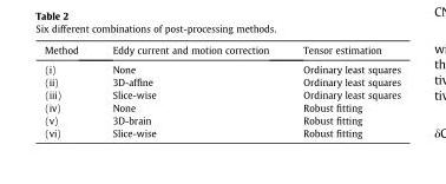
<table><thead><tr><td>Method</td><td>Eddy current and motion correction</td><td>Tensor estimation</td></tr></thead><tbody><tr><td>(i)</td><td>None</td><td>Ordinary least squares</td></tr><tr><td>(ii)</td><td>3D-affine</td><td>Ordinary least squares</td></tr><tr><td>(iii)</td><td>Slice-wise</td><td>Ordinary least squares</td></tr><tr><td>(iv)</td><td>None</td><td>Robust fitting</td></tr><tr><td>(v)</td><td>3D-brain</td><td>Robust fitting</td></tr><tr><td>(vi)</td><td>Slice-wise</td><td>Robust fitting</td></tr></tbody></table>